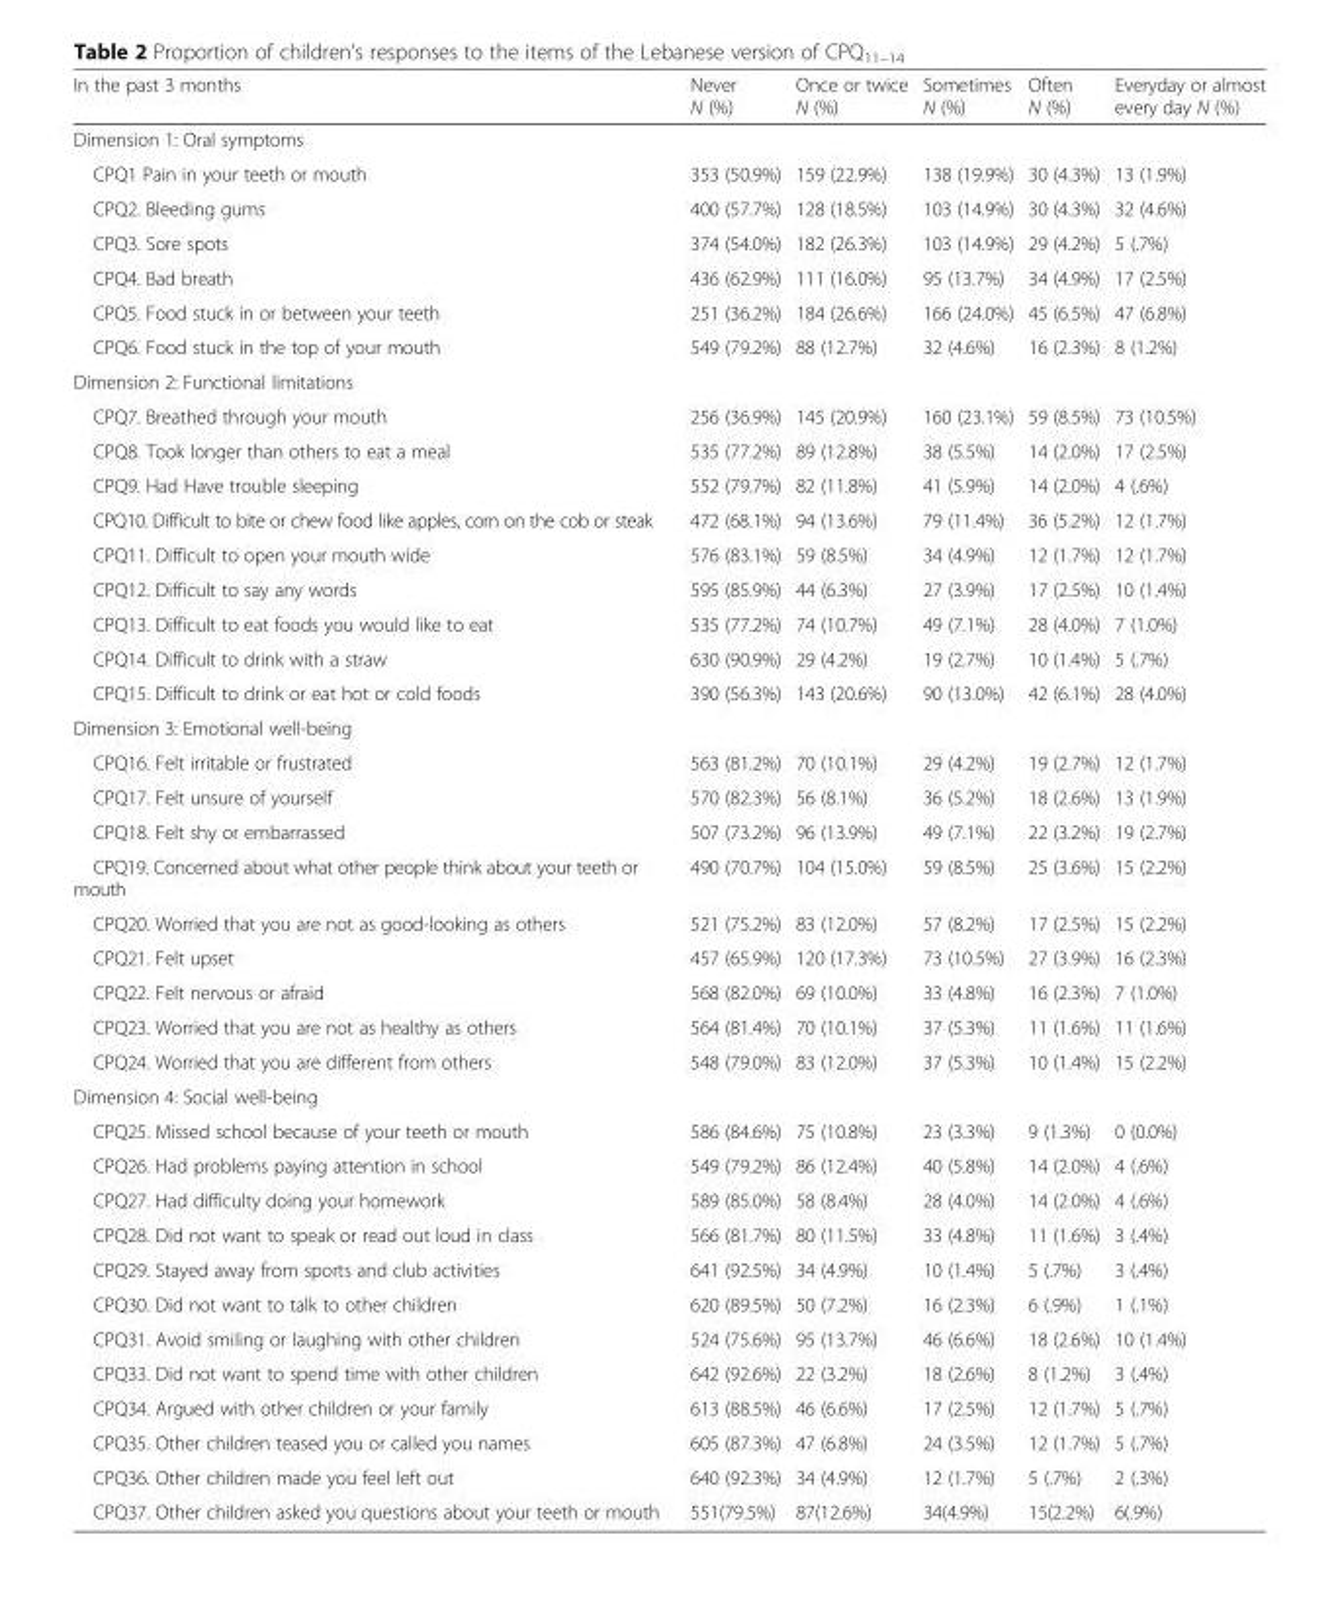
<table><thead><tr><td>In the past 3 months</td><td>Never N (%)</td><td>Once or twice N (%)</td><td>Sometimes N (%)</td><td>Often N (%)</td><td>Everyday or almost every day N (%)</td></tr></thead><tbody><tr><td colspan="6">Dimension 1: Oral symptoms</td></tr><tr><td>CPQ1 Pain in your teeth or mouth</td><td>353 (50.9%)</td><td>159 (22.9%)</td><td>138 (19.9%)</td><td>30 (4.3%)</td><td>13 (1.9%)</td></tr><tr><td>CPQ2. Bleeding gums</td><td>400 (57.7%)</td><td>128 (18.5%)</td><td>103 (14.9%)</td><td>30 (4.3%)</td><td>32 (4.6%)</td></tr><tr><td>CPQ3. Sore spots</td><td>374 (54.0%)</td><td>182 (26.3%)</td><td>103 (14.9%)</td><td>29 (4.2%)</td><td>5 (.7%)</td></tr><tr><td>CPQ4. Bad breath</td><td>436 (62.9%)</td><td>111 (16.0%)</td><td>95 (13.7%)</td><td>34 (4.9%)</td><td>17 (2.5%)</td></tr><tr><td>CPQ5. Food stuck in or between your teeth</td><td>251 (36.2%)</td><td>184 (26.6%)</td><td>166 (24.0%)</td><td>45 (6.5%)</td><td>47 (6.8%)</td></tr><tr><td>CPQ6. Food stuck in the top of your mouth</td><td>549 (79.2%)</td><td>88 (12.7%)</td><td>32 (4.6%)</td><td>16 (2.3%)</td><td>8 (1.2%)</td></tr><tr><td colspan="6">Dimension 2: Functional limitations</td></tr><tr><td>CPQ7. Breathed through your mouth</td><td>256 (36.9%)</td><td>145 (20.9%)</td><td>160 (23.1%)</td><td>59 (8.5%)</td><td>73 (10.5%)</td></tr><tr><td>CPQ8. Took longer than others to eat a meal</td><td>535 (77.2%)</td><td>89 (12.8%)</td><td>38 (5.5%)</td><td>14 (2.0%)</td><td>17 (2.5%)</td></tr><tr><td>CPQ9. Had Have trouble sleeping</td><td>552 (79.7%)</td><td>82 (11.8%)</td><td>41 (5.9%)</td><td>14 (2.0%)</td><td>4 (.6%)</td></tr><tr><td>CPQ10. Difficult to bite or chew food like apples, corn on the cob or steak</td><td>472 (68.1%)</td><td>94 (13.6%)</td><td>79 (11.4%)</td><td>36 (5.2%)</td><td>12 (1.7%)</td></tr><tr><td>CPQ11. Difficult to open your mouth wide</td><td>576 (83.1%)</td><td>59 (8.5%)</td><td>34 (4.9%)</td><td>12 (1.7%)</td><td>12 (1.7%)</td></tr><tr><td>CPQ12. Difficult to say any words</td><td>595 (85.9%)</td><td>44 (6.3%)</td><td>27 (3.9%)</td><td>17 (2.5%)</td><td>10 (1.4%)</td></tr><tr><td>CPQ13. Difficult to eat foods you would like to eat</td><td>535 (77.2%)</td><td>74 (10.7%)</td><td>49 (7.1%)</td><td>28 (4.0%)</td><td>7 (1.0%)</td></tr><tr><td>CPQ14. Difficult to drink with a straw</td><td>630 (90.9%)</td><td>29 (4.2%)</td><td>19 (2.7%)</td><td>10 (1.4%)</td><td>5 (.7%)</td></tr><tr><td>CPQ15. Difficult to drink or eat hot or cold foods</td><td>390 (56.3%)</td><td>143 (20.6%)</td><td>90 (13.0%)</td><td>42 (6.1%)</td><td>28 (4.0%)</td></tr><tr><td colspan="6">Dimension 3: Emotional well-being</td></tr><tr><td>CPQ16. Felt irritable or frustrated</td><td>563 (81.2%)</td><td>70 (10.1%)</td><td>29 (4.2%)</td><td>19 (2.7%)</td><td>12 (1.7%)</td></tr><tr><td>CPQ17. Felt unsure of yourself</td><td>570 (82.3%)</td><td>56 (8.1%)</td><td>36 (5.2%)</td><td>18 (2.6%)</td><td>13 (1.9%)</td></tr><tr><td>CPQ18. Felt shy or embarrassed</td><td>507 (73.2%)</td><td>96 (13.9%)</td><td>49 (7.1%)</td><td>22 (3.2%)</td><td>19 (2.7%)</td></tr><tr><td>CPQ19. Concerned about what other people think about your teeth or mouth</td><td>490 (70.7%)</td><td>104 (15.0%)</td><td>59 (8.5%)</td><td>25 (3.6%)</td><td>15 (2.2%)</td></tr><tr><td>CPQ20. Worried that you are not as good-looking as others</td><td>521 (75.2%)</td><td>83 (12.0%)</td><td>57 (8.2%)</td><td>17 (2.5%)</td><td>15 (2.2%)</td></tr><tr><td>CPQ21. Felt upset</td><td>457 (65.9%)</td><td>120 (17.3%)</td><td>73 (10.5%)</td><td>27 (3.9%)</td><td>16 (2.3%)</td></tr><tr><td>CPQ22. Felt nervous or afraid</td><td>568 (82.0%)</td><td>69 (10.0%)</td><td>33 (4.8%)</td><td>16 (2.3%)</td><td>7 (1.0%)</td></tr><tr><td>CPQ23. Worried that you are not as healthy as others</td><td>564 (81.4%)</td><td>70 (10.1%)</td><td>37 (5.3%)</td><td>11 (1.6%)</td><td>11 (1.6%)</td></tr><tr><td>CPQ24. Worried that you are different from others</td><td>548 (79.0%)</td><td>83 (12.0%)</td><td>37 (5.3%)</td><td>10 (1.4%)</td><td>15 (2.2%)</td></tr><tr><td colspan="6">Dimension 4: Social well-being</td></tr><tr><td>CPQ25. Missed school because of your teeth or mouth</td><td>586 (84.6%)</td><td>75 (10.8%)</td><td>23 (3.3%)</td><td>9 (1.3%)</td><td>0 (0.0%)</td></tr><tr><td>CPQ26. Had problems paying attention in school</td><td>549 (79.2%)</td><td>86 (12.4%)</td><td>40 (5.8%)</td><td>14 (2.0%)</td><td>4 (.6%)</td></tr><tr><td>CPQ27. Had difficulty doing your homework</td><td>589 (85.0%)</td><td>58 (8.4%)</td><td>28 (4.0%)</td><td>14 (2.0%)</td><td>4 (.6%)</td></tr><tr><td>CPQ28. Did not want to speak or read out loud in class</td><td>566 (81.7%)</td><td>80 (11.5%)</td><td>33 (4.8%)</td><td>11 (1.6%)</td><td>3 (.4%)</td></tr><tr><td>CPQ29. Stayed away from sports and club activities</td><td>641 (92.5%)</td><td>34 (4.9%)</td><td>10 (1.4%)</td><td>5 (.7%)</td><td>3 (.4%)</td></tr><tr><td>CPQ30. Did not want to talk to other children</td><td>620 (89.5%)</td><td>50 (7.2%)</td><td>16 (2.3%)</td><td>6 (.9%)</td><td>1 (.1%)</td></tr><tr><td>CPQ31. Avoid smiling or laughing with other children</td><td>524 (75.6%)</td><td>95 (13.7%)</td><td>46 (6.6%)</td><td>18 (2.6%)</td><td>10 (1.4%)</td></tr><tr><td>CPQ33. Did not want to spend time with other children</td><td>642 (92.6%)</td><td>22 (3.2%)</td><td>18 (2.6%)</td><td>8 (1.2%)</td><td>3 (.4%)</td></tr><tr><td>CPQ34. Argued with other children or your family</td><td>613 (88.5%)</td><td>46 (6.6%)</td><td>17 (2.5%)</td><td>12 (1.7%)</td><td>5 (.7%)</td></tr><tr><td>CPQ35. Other children teased you or called you names</td><td>605 (87.3%)</td><td>47 (6.8%)</td><td>24 (3.5%)</td><td>12 (1.7%)</td><td>5 (.7%)</td></tr><tr><td>CPQ36. Other children made you feel left out</td><td>640 (92.3%)</td><td>34 (4.9%)</td><td>12 (1.7%)</td><td>5 (.7%)</td><td>2 (.3%)</td></tr><tr><td>CPQ37. Other children asked you questions about your teeth or mouth</td><td>551(79.5%)</td><td>87(12.6%)</td><td>34(4.9%)</td><td>15(2.2%)</td><td>6(.9%)</td></tr></tbody></table>